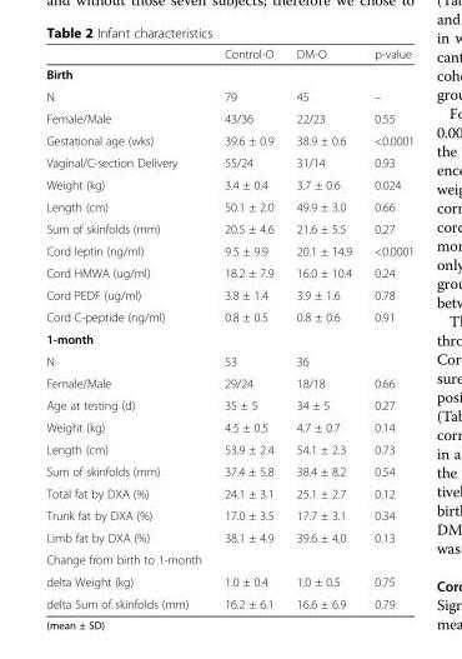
<table><thead><tr><td></td><td>Control-O</td><td>DM-O</td><td>p-value</td></tr></thead><tbody><tr><td colspan="4">Birth</td></tr><tr><td>N</td><td>79</td><td>45</td><td>–</td></tr><tr><td>Female/Male</td><td>43/36</td><td>22/23</td><td>0.55</td></tr><tr><td>Gestational age (wks)</td><td>39.6 ± 0.9</td><td>38.9 ± 0.6</td><td>&lt;0.0001</td></tr><tr><td>Vaginal/C-section Delivery</td><td>55/24</td><td>31/14</td><td>0.93</td></tr><tr><td>Weight (kg)</td><td>3.4 ± 0.4</td><td>3.7 ± 0.6</td><td>0.024</td></tr><tr><td>Length (cm)</td><td>50.1 ± 2.0</td><td>49.9 ± 3.0</td><td>0.66</td></tr><tr><td>Sum of skinfolds (mm)</td><td>20.5 ± 4.6</td><td>21.6 ± 5.5</td><td>0.27</td></tr><tr><td>Cord leptin (ng/ml)</td><td>9.5 ± 9.9</td><td>20.1 ± 14.9</td><td>&lt;0.0001</td></tr><tr><td>Cord HMWA (ug/ml)</td><td>18.2 ± 7.9</td><td>16.0 ± 10.4</td><td>0.24</td></tr><tr><td>Cord PEDF (ug/ml)</td><td>3.8 ± 1.4</td><td>3.9 ± 1.6</td><td>0.78</td></tr><tr><td>Cord C-peptide (ng/ml)</td><td>0.8 ± 0.5</td><td>0.8 ± 0.6</td><td>0.91</td></tr><tr><td colspan="4">1-month</td></tr><tr><td>N</td><td>53</td><td>36</td><td></td></tr><tr><td>Female/Male</td><td>29/24</td><td>18/18</td><td>0.66</td></tr><tr><td>Age at testing (d)</td><td>35 ± 5</td><td>34 ± 5</td><td>0.27</td></tr><tr><td>Weight (kg)</td><td>4.5 ± 0.5</td><td>4.7 ± 0.7</td><td>0.14</td></tr><tr><td>Length (cm)</td><td>53.9 ± 2.4</td><td>54.1 ± 2.3</td><td>0.73</td></tr><tr><td>Sum of skinfolds (mm)</td><td>37.4 ± 5.8</td><td>38.4 ± 8.2</td><td>0.54</td></tr><tr><td>Total fat by DXA (%)</td><td>24.1 ± 3.1</td><td>25.1 ± 2.7</td><td>0.12</td></tr><tr><td>Trunk fat by DXA (%)</td><td>17.0 ± 3.5</td><td>17.7 ± 3.1</td><td>0.34</td></tr><tr><td>Limb fat by DXA (%)</td><td>38.1 ± 4.9</td><td>39.6 ± 4.0</td><td>0.13</td></tr><tr><td colspan="4">Change from birth to 1-month</td></tr><tr><td>delta Weight (kg)</td><td>1.0 ± 0.4</td><td>1.0 ± 0.5</td><td>0.75</td></tr><tr><td>delta Sum of skinfolds (mm)</td><td>16.2 ± 6.1</td><td>16.6 ± 6.9</td><td>0.79</td></tr></tbody></table>